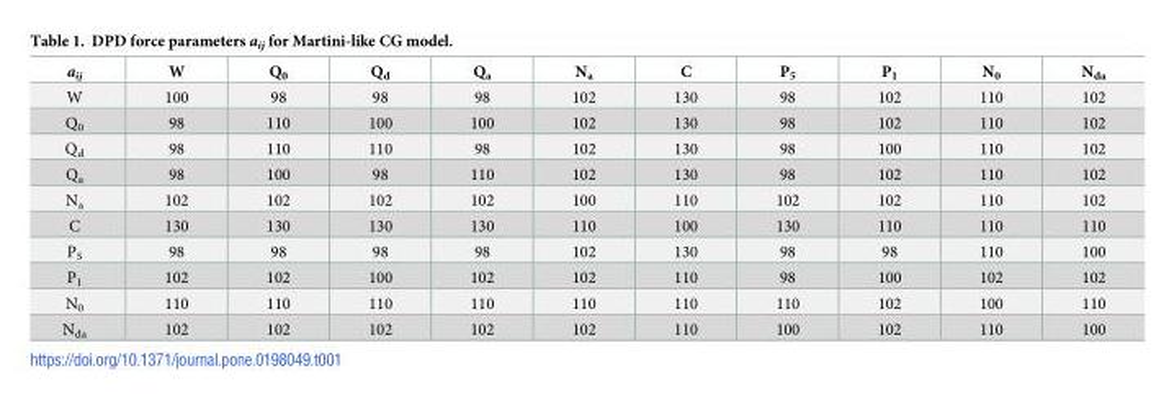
<table><thead><tr><td>a<sub>ij</sub></td><td>W</td><td>Q<sub>0</sub></td><td>Q<sub>d</sub></td><td>Q<sub>a</sub></td><td>N<sub>a</sub></td><td>C</td><td>P<sub>5</sub></td><td>P<sub>1</sub></td><td>N<sub>0</sub></td><td>N<sub>da</sub></td></tr></thead><tbody><tr><td>W</td><td>100</td><td>98</td><td>98</td><td>98</td><td>102</td><td>130</td><td>98</td><td>102</td><td>110</td><td>102</td></tr><tr><td>Q<sub>0</sub></td><td>98</td><td>110</td><td>100</td><td>100</td><td>102</td><td>130</td><td>98</td><td>102</td><td>110</td><td>102</td></tr><tr><td>Q<sub>d</sub></td><td>98</td><td>110</td><td>110</td><td>98</td><td>102</td><td>130</td><td>98</td><td>100</td><td>110</td><td>102</td></tr><tr><td>Q<sub>a</sub></td><td>98</td><td>100</td><td>98</td><td>110</td><td>102</td><td>130</td><td>98</td><td>102</td><td>110</td><td>102</td></tr><tr><td>N<sub>a</sub></td><td>102</td><td>102</td><td>102</td><td>102</td><td>100</td><td>110</td><td>102</td><td>102</td><td>110</td><td>102</td></tr><tr><td>C</td><td>130</td><td>130</td><td>130</td><td>130</td><td>110</td><td>100</td><td>130</td><td>110</td><td>110</td><td>110</td></tr><tr><td>P<sub>5</sub></td><td>98</td><td>98</td><td>98</td><td>98</td><td>102</td><td>130</td><td>98</td><td>98</td><td>110</td><td>100</td></tr><tr><td>P<sub>1</sub></td><td>102</td><td>102</td><td>100</td><td>102</td><td>102</td><td>110</td><td>98</td><td>100</td><td>102</td><td>102</td></tr><tr><td>N<sub>0</sub></td><td>110</td><td>110</td><td>110</td><td>110</td><td>110</td><td>110</td><td>110</td><td>102</td><td>100</td><td>110</td></tr><tr><td>N<sub>da</sub></td><td>102</td><td>102</td><td>102</td><td>102</td><td>102</td><td>110</td><td>100</td><td>102</td><td>110</td><td>100</td></tr></tbody></table>